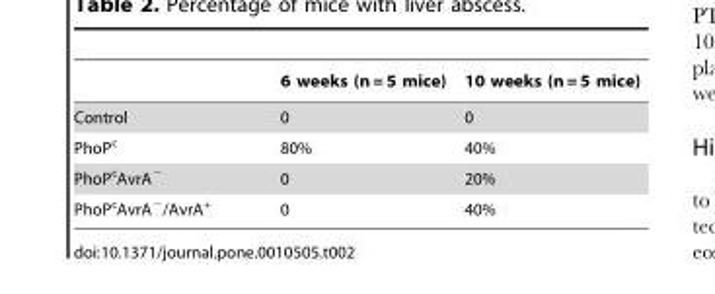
<table><thead><tr><td></td><td>6 weeks (n = 5 mice)</td><td>10 weeks (n = 5 mice)</td></tr></thead><tbody><tr><td>Control</td><td>0</td><td>0</td></tr><tr><td>PhoP<sup>c</sup></td><td>80%</td><td>40%</td></tr><tr><td>PhoP<sup>c</sup>AvrA<sup>−</sup></td><td>0</td><td>20%</td></tr><tr><td>PhoP<sup>c</sup>AvrA<sup>−</sup>/AvrA<sup>+</sup></td><td>0</td><td>40%</td></tr></tbody></table>